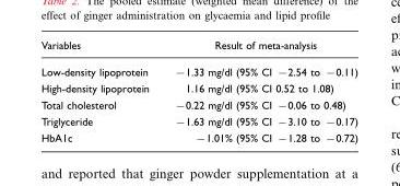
<table><thead><tr><td>Variables</td><td>Result of meta-analysis</td></tr></thead><tbody><tr><td>Low-density lipoprotein</td><td>−1.33 mg/dl (95% CI −2.54 to −0.11)</td></tr><tr><td>High-density lipoprotein</td><td>1.16 mg/dl (95% CI 0.52 to 1.08)</td></tr><tr><td>Total cholesterol</td><td>−0.22 mg/dl (95% CI −0.06 to 0.48)</td></tr><tr><td>Triglyceride</td><td>−1.63 mg/dl (95% CI −3.10 to −0.17)</td></tr><tr><td>HbA1c</td><td>−1.01% (95% CI −1.28 to −0.72)</td></tr></tbody></table>